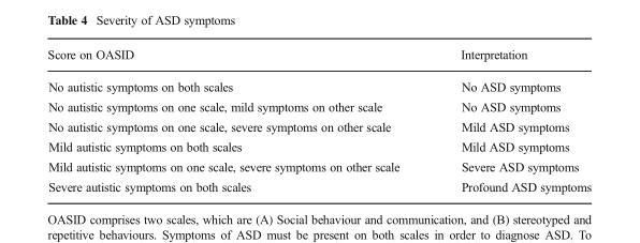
<table><thead><tr><td>Score on OASID</td><td>Interpretation</td></tr></thead><tbody><tr><td>No autistic symptoms on both scales</td><td>No ASD symptoms</td></tr><tr><td>No autistic symptoms on one scale, mild symptoms on other scale</td><td>No ASD symptoms</td></tr><tr><td>No autistic symptoms on one scale, severe symptoms on other scale</td><td>Mild ASD symptoms</td></tr><tr><td>Mild autistic symptoms on both scales</td><td>Mild ASD symptoms</td></tr><tr><td>Mild autistic symptoms on one scale, severe symptoms on other scale</td><td>Severe ASD symptoms</td></tr><tr><td>Severe autistic symptoms on both scales</td><td>Profound ASD symptoms</td></tr></tbody></table>